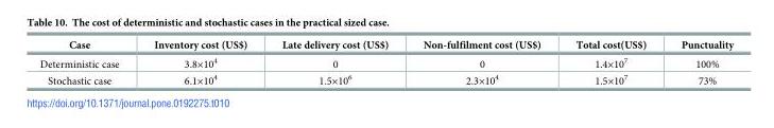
<table><thead><tr><td>Case</td><td>Inventory cost (US$)</td><td>Late delivery cost (US$)</td><td>Non-fulfilment cost (US$)</td><td>Total cost(US$)</td><td>Punctuality</td></tr></thead><tbody><tr><td>Deterministic case</td><td>3.8×10<sup>4</sup></td><td>0</td><td>0</td><td>1.4×10<sup>7</sup></td><td>100%</td></tr><tr><td>Stochastic case</td><td>6.1×10<sup>4</sup></td><td>1.5×10<sup>6</sup></td><td>2.3×10<sup>4</sup></td><td>1.5×10<sup>7</sup></td><td>73%</td></tr></tbody></table>